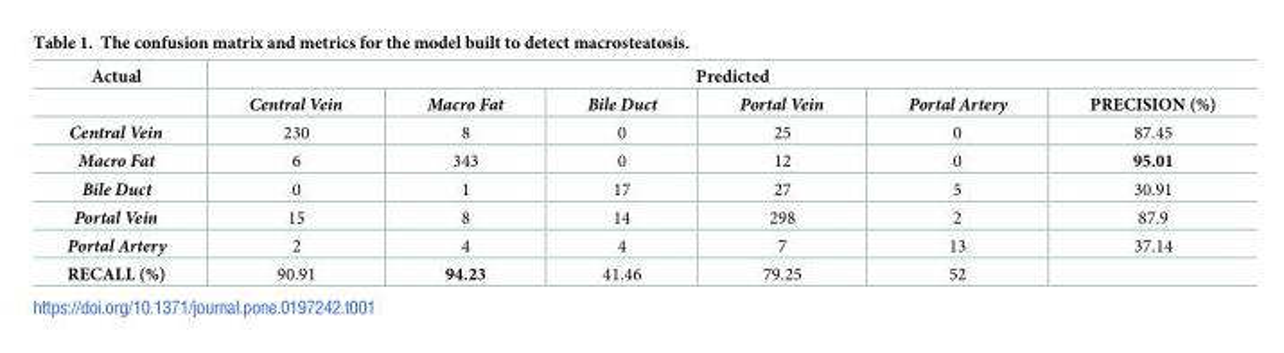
<table><thead><tr><td rowspan="2">Actual</td><td colspan="6">Predicted</td></tr><tr><td>Central Vein</td><td>Macro Fat</td><td>Bile Duct</td><td>Portal Vein</td><td>Portal Artery</td><td>PRECISION (%)</td></tr></thead><tbody><tr><td>Central Vein</td><td>230</td><td>8</td><td>0</td><td>25</td><td>0</td><td>87.45</td></tr><tr><td>Macro Fat</td><td>6</td><td>343</td><td>0</td><td>12</td><td>0</td><td>95.01</td></tr><tr><td>Bile Duct</td><td>0</td><td>1</td><td>17</td><td>27</td><td>5</td><td>30.91</td></tr><tr><td>Portal Vein</td><td>15</td><td>8</td><td>14</td><td>298</td><td>2</td><td>87.9</td></tr><tr><td>Portal Artery</td><td>2</td><td>4</td><td>4</td><td>7</td><td>13</td><td>37.14</td></tr><tr><td>RECALL (%)</td><td>90.91</td><td>94.23</td><td>41.46</td><td>79.25</td><td>52</td><td></td></tr></tbody></table>